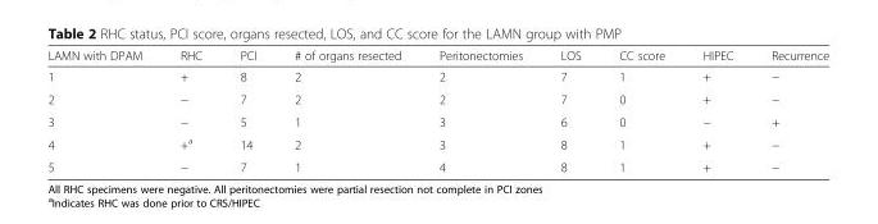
<table><thead><tr><td>LAMN with DPAM</td><td>RHC</td><td>PCI</td><td># of organs resected</td><td>Peritonectomies</td><td>LOS</td><td>CC score</td><td>HIPEC</td><td>Recurrence</td></tr></thead><tbody><tr><td>1</td><td>+</td><td>8</td><td>2</td><td>2</td><td>7</td><td>1</td><td>+</td><td>−</td></tr><tr><td>2</td><td>−</td><td>7</td><td>2</td><td>2</td><td>7</td><td>0</td><td>+</td><td>−</td></tr><tr><td>3</td><td>−</td><td>5</td><td>1</td><td>3</td><td>6</td><td>0</td><td>−</td><td>+</td></tr><tr><td>4</td><td>+<sup>a</sup></td><td>14</td><td>2</td><td>3</td><td>8</td><td>1</td><td>+</td><td>−</td></tr><tr><td>5</td><td>−</td><td>7</td><td>1</td><td>4</td><td>8</td><td>1</td><td>+</td><td>−</td></tr></tbody></table>